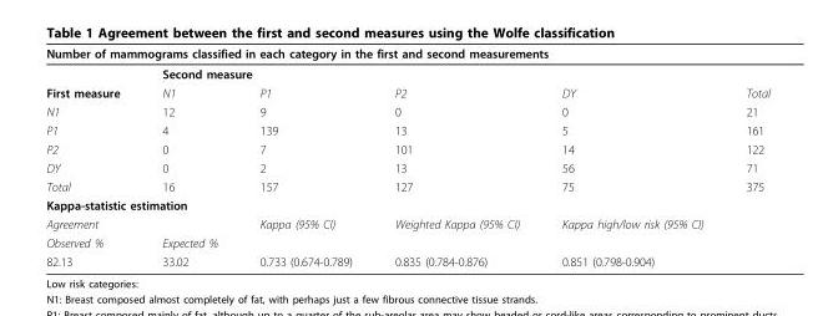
<table><thead><tr><td colspan="6">Number of mammograms classified in each category in the first and second measurements</td></tr><tr><td rowspan="2">First measure</td><td colspan="5">Second measure</td></tr><tr><td>N1</td><td>P1</td><td>P2</td><td>DY</td><td>Total</td></tr></thead><tbody><tr><td>N1</td><td>12</td><td>9</td><td>0</td><td>0</td><td>21</td></tr><tr><td>P1</td><td>4</td><td>139</td><td>13</td><td>5</td><td>161</td></tr><tr><td>P2</td><td>0</td><td>7</td><td>101</td><td>14</td><td>122</td></tr><tr><td>DY</td><td>0</td><td>2</td><td>13</td><td>56</td><td>71</td></tr><tr><td>Total</td><td>16</td><td>157</td><td>127</td><td>75</td><td>375</td></tr><tr><td colspan="6">Kappa-statistic estimation</td></tr><tr><td colspan="2">Agreement</td><td>Kappa (95% CI)</td><td>Weighted Kappa (95% CI)</td><td>Kappa high/low risk (95% CI)</td><td></td></tr><tr><td>Observed %</td><td>Expected %</td><td></td><td></td><td></td><td></td></tr><tr><td>82.13</td><td>33.02</td><td>0.733 (0.674-0.789)</td><td>0.835 (0.784-0.876)</td><td>0.851 (0.798-0.904)</td><td></td></tr></tbody></table>